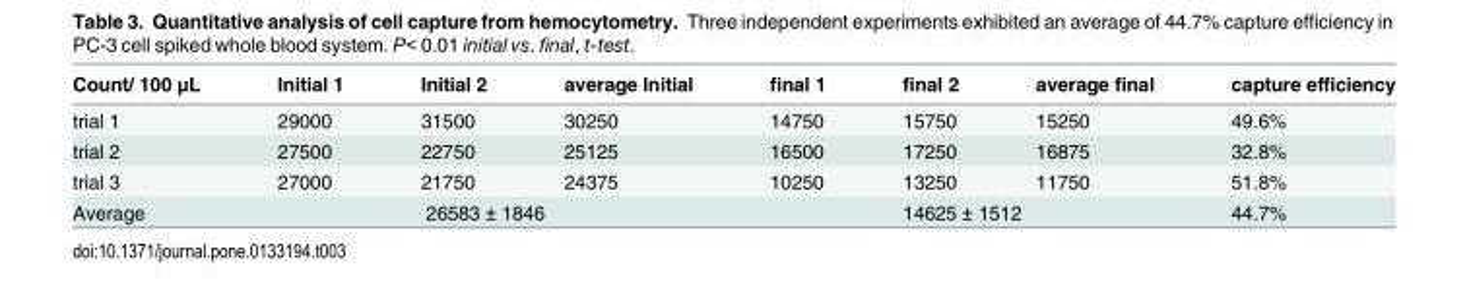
<table><thead><tr><td>Count/ 100 μL</td><td>Initial 1</td><td>Initial 2</td><td>average Initial</td><td>final 1</td><td>final 2</td><td>average final</td><td>capture efficiency</td></tr></thead><tbody><tr><td>trial 1</td><td>29000</td><td>31500</td><td>30250</td><td>14750</td><td>15750</td><td>15250</td><td>49.6%</td></tr><tr><td>trial 2</td><td>27500</td><td>22750</td><td>25125</td><td>16500</td><td>17250</td><td>16875</td><td>32.8%</td></tr><tr><td>trial 3</td><td>27000</td><td>21750</td><td>24375</td><td>10250</td><td>13250</td><td>11750</td><td>51.8%</td></tr><tr><td>Average</td><td colspan="3">26583 ± 1846</td><td colspan="3">14625 ± 1512</td><td>44.7%</td></tr></tbody></table>